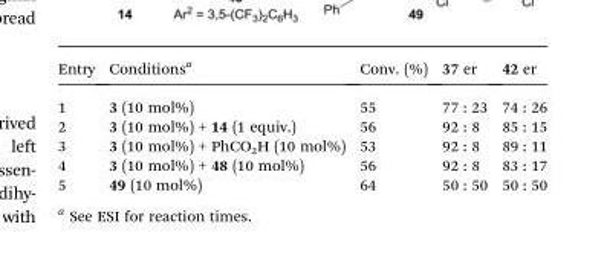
<table><thead><tr><td>Entry</td><td>Conditions<sup>a</sup></td><td>Conv. (%)</td><td>37 er</td><td>42 er</td></tr></thead><tbody><tr><td>1</td><td>3 (10 mol%)</td><td>55</td><td>77 : 23</td><td>74 : 26</td></tr><tr><td>2</td><td>3 (10 mol%) + 14 (1 equiv.)</td><td>56</td><td>92 : 8</td><td>85 : 15</td></tr><tr><td>3</td><td>3 (10 mol%) + PhCO<sub>2</sub>H (10 mol%)</td><td>53</td><td>92 : 8</td><td>89 : 11</td></tr><tr><td>4</td><td>3 (10 mol%) + 48 (10 mol%)</td><td>56</td><td>92 : 8</td><td>83 : 17</td></tr><tr><td>5</td><td>49 (10 mol%)</td><td>64</td><td>50 : 50</td><td>50 : 50</td></tr></tbody></table>